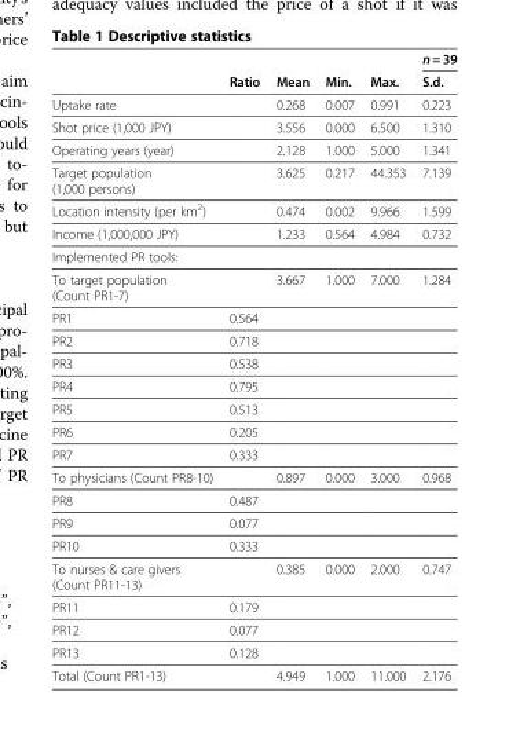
<table><thead><tr><td rowspan="2"></td><td rowspan="2">Ratio</td><td rowspan="2">Mean</td><td rowspan="2">Min.</td><td rowspan="2">Max.</td><td rowspan="2">n = 39 S.d.</td></tr><tr></tr></thead><tbody><tr><td>Uptake rate</td><td></td><td>0.268</td><td>0.007</td><td>0.991</td><td>0.223</td></tr><tr><td>Shot price (1,000 JPY)</td><td></td><td>3.556</td><td>0.000</td><td>6.500</td><td>1.310</td></tr><tr><td>Operating years (year)</td><td></td><td>2.128</td><td>1.000</td><td>5.000</td><td>1.341</td></tr><tr><td>Target population (1,000 persons)</td><td></td><td>3.625</td><td>0.217</td><td>44.353</td><td>7.139</td></tr><tr><td>Location intensity (per km<sup>2</sup>)</td><td></td><td>0.474</td><td>0.002</td><td>9.966</td><td>1.599</td></tr><tr><td>Income (1,000,000 JPY)</td><td></td><td>1.233</td><td>0.564</td><td>4.984</td><td>0.732</td></tr><tr><td colspan="6">Implemented PR tools:</td></tr><tr><td>To target population (Count PR1-7)</td><td></td><td>3.667</td><td>1.000</td><td>7.000</td><td>1.284</td></tr><tr><td>PR1</td><td>0.564</td><td></td><td></td><td></td><td></td></tr><tr><td>PR2</td><td>0.718</td><td></td><td></td><td></td><td></td></tr><tr><td>PR3</td><td>0.538</td><td></td><td></td><td></td><td></td></tr><tr><td>PR4</td><td>0.795</td><td></td><td></td><td></td><td></td></tr><tr><td>PR5</td><td>0.513</td><td></td><td></td><td></td><td></td></tr><tr><td>PR6</td><td>0.205</td><td></td><td></td><td></td><td></td></tr><tr><td>PR7</td><td>0.333</td><td></td><td></td><td></td><td></td></tr><tr><td>To physicians (Count PR8-10)</td><td></td><td>0.897</td><td>0.000</td><td>3.000</td><td>0.968</td></tr><tr><td>PR8</td><td>0.487</td><td></td><td></td><td></td><td></td></tr><tr><td>PR9</td><td>0.077</td><td></td><td></td><td></td><td></td></tr><tr><td>PR10</td><td>0.333</td><td></td><td></td><td></td><td></td></tr><tr><td>To nurses &amp; care givers (Count PR11-13)</td><td></td><td>0.385</td><td>0.000</td><td>2.000</td><td>0.747</td></tr><tr><td>PR11</td><td>0.179</td><td></td><td></td><td></td><td></td></tr><tr><td>PR12</td><td>0.077</td><td></td><td></td><td></td><td></td></tr><tr><td>PR13</td><td>0.128</td><td></td><td></td><td></td><td></td></tr><tr><td>Total (Count PR1-13)</td><td></td><td>4.949</td><td>1.000</td><td>11.000</td><td>2.176</td></tr></tbody></table>